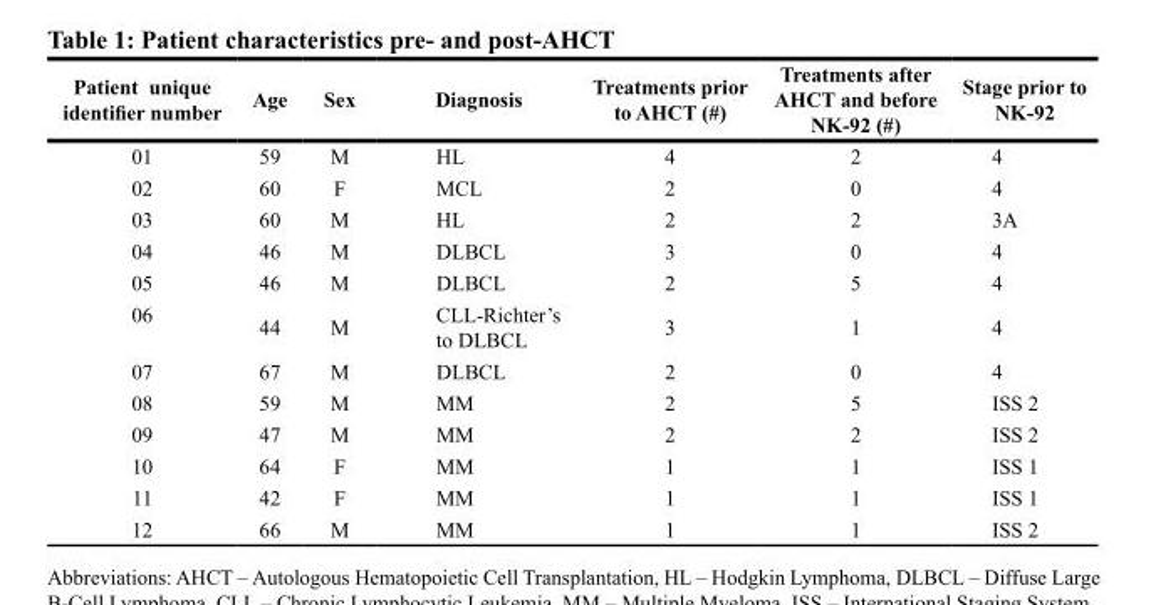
<table><thead><tr><td>Patient unique identifier number</td><td>Age</td><td>Sex</td><td>Diagnosis</td><td>Treatments prior to AHCT (#)</td><td>Treatments after AHCT and before NK-92 (#)</td><td>Stage prior to NK-92</td></tr></thead><tbody><tr><td>01</td><td>59</td><td>M</td><td>HL</td><td>4</td><td>2</td><td>4</td></tr><tr><td>02</td><td>60</td><td>F</td><td>MCL</td><td>2</td><td>0</td><td>4</td></tr><tr><td>03</td><td>60</td><td>M</td><td>HL</td><td>2</td><td>2</td><td>3A</td></tr><tr><td>04</td><td>46</td><td>M</td><td>DLBCL</td><td>3</td><td>0</td><td>4</td></tr><tr><td>05</td><td>46</td><td>M</td><td>DLBCL</td><td>2</td><td>5</td><td>4</td></tr><tr><td>06</td><td>44</td><td>M</td><td>CLL-Richter’s to DLBCL</td><td>3</td><td>1</td><td>4</td></tr><tr><td>07</td><td>67</td><td>M</td><td>DLBCL</td><td>2</td><td>0</td><td>4</td></tr><tr><td>08</td><td>59</td><td>M</td><td>MM</td><td>2</td><td>5</td><td>ISS 2</td></tr><tr><td>09</td><td>47</td><td>M</td><td>MM</td><td>2</td><td>2</td><td>ISS 2</td></tr><tr><td>10</td><td>64</td><td>F</td><td>MM</td><td>1</td><td>1</td><td>ISS 1</td></tr><tr><td>11</td><td>42</td><td>F</td><td>MM</td><td>1</td><td>1</td><td>ISS 1</td></tr><tr><td>12</td><td>66</td><td>M</td><td>MM</td><td>1</td><td>1</td><td>ISS 2</td></tr></tbody></table>